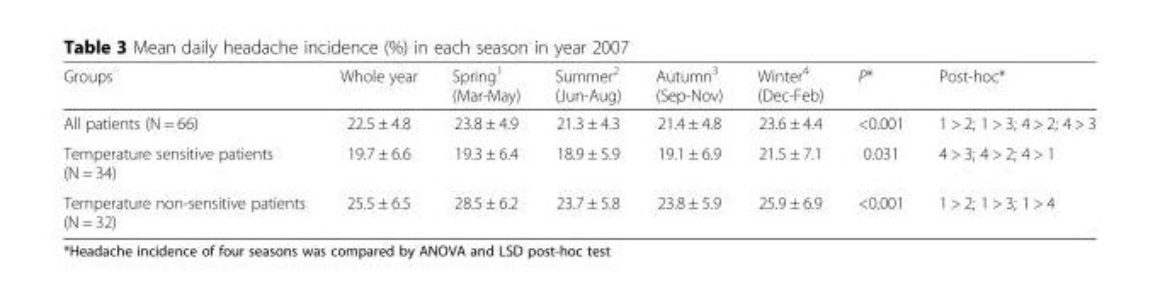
<table><thead><tr><td>Groups</td><td>Whole year</td><td>Spring<sup>1</sup> (Mar-May)</td><td>Summer<sup>2</sup> (Jun-Aug)</td><td>Autumn<sup>3</sup> (Sep-Nov)</td><td>Winter<sup>4</sup> (Dec-Feb)</td><td>P*</td><td>Post-hoc*</td></tr></thead><tbody><tr><td>All patients (N = 66)</td><td>22.5 ± 4.8</td><td>23.8 ± 4.9</td><td>21.3 ± 4.3</td><td>21.4 ± 4.8</td><td>23.6 ± 4.4</td><td>&lt;0.001</td><td>1 &gt; 2; 1 &gt; 3; 4 &gt; 2; 4 &gt; 3</td></tr><tr><td>Temperature sensitive patients (N = 34)</td><td>19.7 ± 6.6</td><td>19.3 ± 6.4</td><td>18.9 ± 5.9</td><td>19.1 ± 6.9</td><td>21.5 ± 7.1</td><td>0.031</td><td>4 &gt; 3; 4 &gt; 2; 4 &gt; 1</td></tr><tr><td>Temperature non-sensitive patients (N = 32)</td><td>25.5 ± 6.5</td><td>28.5 ± 6.2</td><td>23.7 ± 5.8</td><td>23.8 ± 5.9</td><td>25.9 ± 6.9</td><td>&lt;0.001</td><td>1 &gt; 2; 1 &gt; 3; 1 &gt; 4</td></tr></tbody></table>